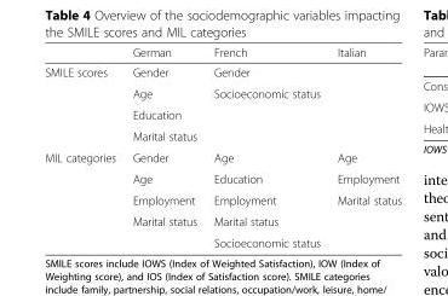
<table><thead><tr><td></td><td>German</td><td>French</td><td>Italian</td></tr></thead><tbody><tr><td rowspan="4">SMILE scores</td><td>Gender</td><td>Gender</td><td></td></tr><tr><td>Age</td><td>Socioeconomic status</td><td></td></tr><tr><td>Education</td><td></td><td></td></tr><tr><td>Marital status</td><td></td><td></td></tr><tr><td rowspan="5">MIL categories</td><td>Gender</td><td>Age</td><td>Age</td></tr><tr><td>Age</td><td>Education</td><td>Employment</td></tr><tr><td>Employment</td><td>Employment</td><td>Marital status</td></tr><tr><td>Marital status</td><td>Marital status</td><td></td></tr><tr><td></td><td>Socioeconomic status</td><td></td></tr></tbody></table>